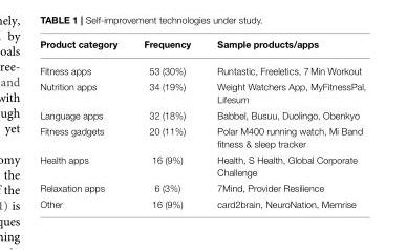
<table><thead><tr><td>Product category</td><td>Frequency</td><td>Sample products/apps</td></tr></thead><tbody><tr><td>Fitness apps</td><td>53 (30%)</td><td>Runtastic, Freeletics, 7 Min Workout</td></tr><tr><td>Nutrition apps</td><td>34 (19%)</td><td>Weight Watchers App, MyFitnessPal, Lifesum</td></tr><tr><td>Language apps</td><td>32 (18%)</td><td>Babbel, Busuu, Duolingo, Obenkyo</td></tr><tr><td>Fitness gadgets</td><td>20 (11%)</td><td>Polar M400 running watch, Mi Band fitness &amp; sleep tracker</td></tr><tr><td>Health apps</td><td>16 (9%)</td><td>Health, S Health, Global Corporate Challenge</td></tr><tr><td>Relaxation apps</td><td>6 (3%)</td><td>7Mind, Provider Resilience</td></tr><tr><td>Other</td><td>16 (9%)</td><td>card2brain, NeuroNation, Memrise</td></tr></tbody></table>